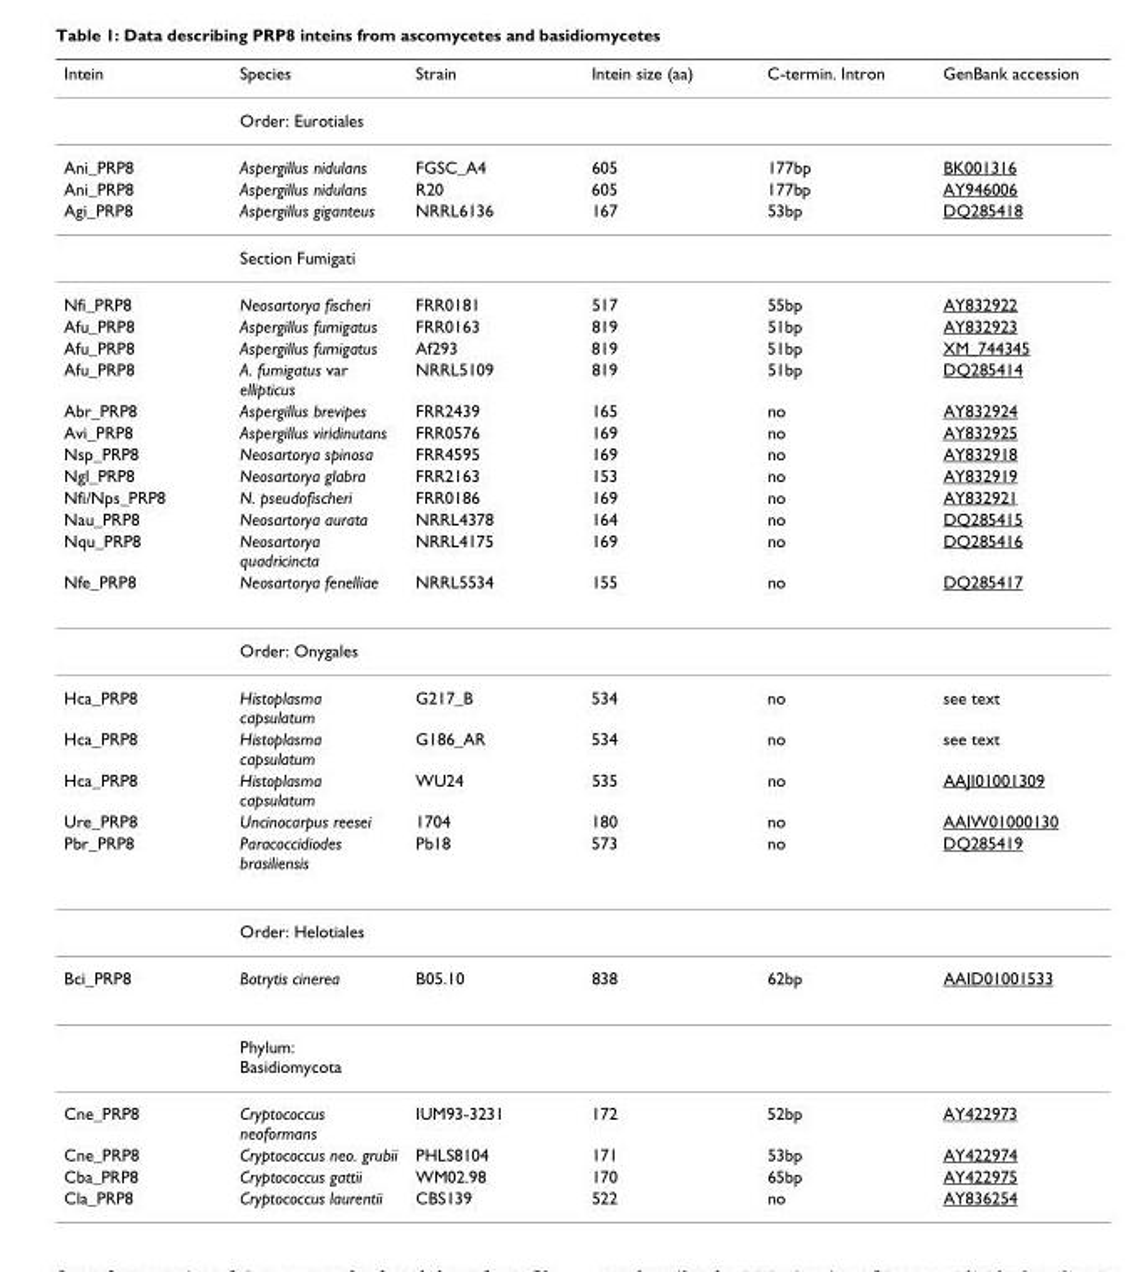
<table><thead><tr><td>Intein</td><td>Species</td><td>Strain</td><td>Intein size (aa)</td><td>C-termin. Intron</td><td>GenBank accession</td></tr></thead><tbody><tr><td></td><td>Order: Eurotiales</td><td></td><td></td><td></td><td></td></tr><tr><td>Ani_PRP8</td><td>Aspergillus nidulans</td><td>FGSC_A4</td><td>605</td><td>177bp</td><td>BK001316</td></tr><tr><td>Ani_PRP8</td><td>Aspergillus nidulans</td><td>R20</td><td>605</td><td>177bp</td><td>AY946006</td></tr><tr><td rowspan="2">Agi_PRP8</td><td>Aspergillus giganteus</td><td>NRRL6136</td><td>167</td><td>53bp</td><td>DQ285418</td></tr><tr><td>Section Fumigati</td><td></td><td></td><td></td><td></td></tr><tr><td>Nfi_PRP8</td><td>Neosartorya fischeri</td><td>FRR0181</td><td>517</td><td>55bp</td><td>AY832922</td></tr><tr><td>Afu_PRP8</td><td>Aspergillus fumigatus</td><td>FRR0163</td><td>819</td><td>51bp</td><td>AY832923</td></tr><tr><td>Afu_PRP8</td><td>Aspergillus fumigatus</td><td>Af293</td><td>819</td><td>51bp</td><td>XM_744345</td></tr><tr><td>Afu_PRP8</td><td>A. fumigatus var ellipticus</td><td>NRRL5109</td><td>819</td><td>51bp</td><td>DQ285414</td></tr><tr><td>Abr_PRP8</td><td>Aspergillus brevipes</td><td>FRR2439</td><td>165</td><td>no</td><td>AY832924</td></tr><tr><td>Avi_PRP8</td><td>Aspergillus viridinutans</td><td>FRR0576</td><td>169</td><td>no</td><td>AY832925</td></tr><tr><td>Nsp_PRP8</td><td>Neosartorya spinosa</td><td>FRR4595</td><td>169</td><td>no</td><td>AY832918</td></tr><tr><td>Ngl_PRP8</td><td>Neosartorya glabra</td><td>FRR2163</td><td>153</td><td>no</td><td>AY832919</td></tr><tr><td>Nfi/Nps_PRP8</td><td>N. pseudofischeri</td><td>FRR0186</td><td>169</td><td>no</td><td>AY832921</td></tr><tr><td>Nau_PRP8</td><td>Neosartorya aurata</td><td>NRRL4378</td><td>164</td><td>no</td><td>DQ285415</td></tr><tr><td>Nqu_PRP8</td><td>Neosartorya quadricincta</td><td>NRRL4175</td><td>169</td><td>no</td><td>DQ285416</td></tr><tr><td rowspan="2">Nfe_PRP8</td><td>Neosartorya fenelliae</td><td>NRRL5534</td><td>155</td><td>no</td><td>DQ285417</td></tr><tr><td>Order: Onygales</td><td></td><td></td><td></td><td></td></tr><tr><td>Hca_PRP8</td><td>Histoplasma capsulatum</td><td>G217_B</td><td>534</td><td>no</td><td>see text</td></tr><tr><td>Hca_PRP8</td><td>Histoplasma capsulatum</td><td>G186_AR</td><td>534</td><td>no</td><td>see text</td></tr><tr><td>Hca_PRP8</td><td>Histoplasma capsulatum</td><td>WU24</td><td>535</td><td>no</td><td>AAJI01001309</td></tr><tr><td>Ure_PRP8</td><td>Uncinocarpus reesei</td><td>1704</td><td>180</td><td>no</td><td>AAIW01000130</td></tr><tr><td rowspan="2">Pbr_PRP8</td><td>Paracoccidiodes brasiliensis</td><td>Pb18</td><td>573</td><td>no</td><td>DQ285419</td></tr><tr><td>Order: Helotiales</td><td></td><td></td><td></td><td></td></tr><tr><td rowspan="2">Bci_PRP8</td><td>Botrytis cinerea</td><td>B05.10</td><td>838</td><td>62bp</td><td>AAID01001533</td></tr><tr><td>Phylum: Basidiomycota</td><td></td><td></td><td></td><td></td></tr><tr><td>Cne_PRP8</td><td>Cryptococcus neoformans</td><td>IUM93-3231</td><td>172</td><td>52bp</td><td>AY422973</td></tr><tr><td>Cne_PRP8</td><td>Cryptococcus neo. grubii</td><td>PHLS8104</td><td>171</td><td>53bp</td><td>AY422974</td></tr><tr><td>Cba_PRP8</td><td>Cryptococcus gattii</td><td>WM02.98</td><td>170</td><td>65bp</td><td>AY422975</td></tr><tr><td>Cla_PRP8</td><td>Cryptococcus laurentii</td><td>CBS139</td><td>522</td><td>no</td><td>AY836254</td></tr></tbody></table>